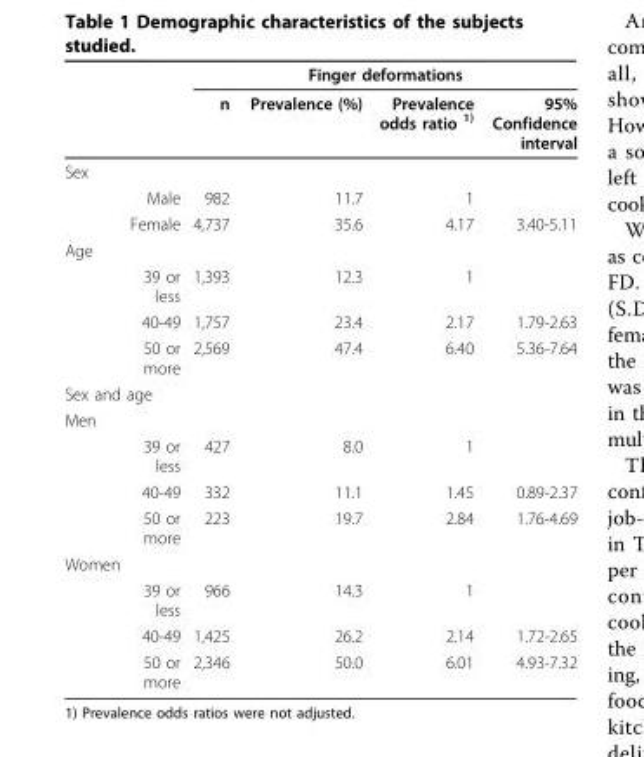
<table><thead><tr><td rowspan="2"></td><td colspan="4">Finger deformations</td></tr><tr><td>n</td><td>Prevalence (%)</td><td>Prevalence odds ratio <sup>1)</sup></td><td>95% Confidence interval</td></tr></thead><tbody><tr><td colspan="5">Sex</td></tr><tr><td>Male</td><td>982</td><td>11.7</td><td>1</td><td></td></tr><tr><td>Female</td><td>4,737</td><td>35.6</td><td>4.17</td><td>3.40-5.11</td></tr><tr><td colspan="5">Age</td></tr><tr><td>39 or less</td><td>1,393</td><td>12.3</td><td>1</td><td></td></tr><tr><td>40-49</td><td>1,757</td><td>23.4</td><td>2.17</td><td>1.79-2.63</td></tr><tr><td>50 or more</td><td>2,569</td><td>47.4</td><td>6.40</td><td>5.36-7.64</td></tr><tr><td colspan="5">Sex and age</td></tr><tr><td colspan="5">Men</td></tr><tr><td>39 or less</td><td>427</td><td>8.0</td><td>1</td><td></td></tr><tr><td>40-49</td><td>332</td><td>11.1</td><td>1.45</td><td>0.89-2.37</td></tr><tr><td>50 or more</td><td>223</td><td>19.7</td><td>2.84</td><td>1.76-4.69</td></tr><tr><td colspan="5">Women</td></tr><tr><td>39 or less</td><td>966</td><td>14.3</td><td>1</td><td></td></tr><tr><td>40-49</td><td>1,425</td><td>26.2</td><td>2.14</td><td>1.72-2.65</td></tr><tr><td>50 or more</td><td>2,346</td><td>50.0</td><td>6.01</td><td>4.93-7.32</td></tr></tbody></table>